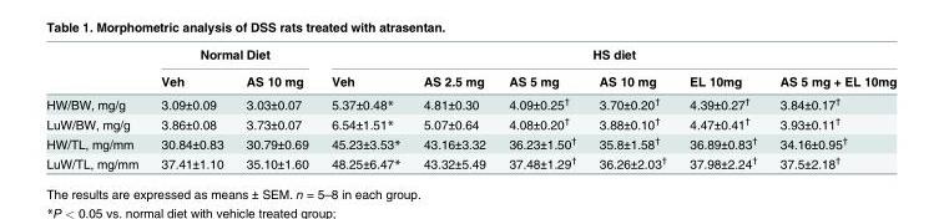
<table><thead><tr><td rowspan="2"></td><td colspan="2">Normal Diet</td><td colspan="6">HS diet</td></tr><tr><td>Veh</td><td>AS 10 mg</td><td>Veh</td><td>AS 2.5 mg</td><td>AS 5 mg</td><td>AS 10 mg</td><td>EL 10mg</td><td>AS 5 mg + EL 10mg</td></tr></thead><tbody><tr><td>HW/BW, mg/g</td><td>3.09±0.09</td><td>3.03±0.07</td><td>5.37±0.48*</td><td>4.81±0.30</td><td>4.09±0.25<sup>†</sup></td><td>3.70±0.20<sup>†</sup></td><td>4.39±0.27<sup>†</sup></td><td>3.84±0.17<sup>†</sup></td></tr><tr><td>LuW/BW, mg/g</td><td>3.86±0.08</td><td>3.73±0.07</td><td>6.54±1.51*</td><td>5.07±0.64</td><td>4.08±0.20<sup>†</sup></td><td>3.88±0.10<sup>†</sup></td><td>4.47±0.41<sup>†</sup></td><td>3.93±0.11<sup>†</sup></td></tr><tr><td>HW/TL, mg/mm</td><td>30.84±0.83</td><td>30.79±0.69</td><td>45.23±3.53*</td><td>43.16±3.32</td><td>36.23±1.50<sup>†</sup></td><td>35.8±1.58<sup>†</sup></td><td>36.89±0.83<sup>†</sup></td><td>34.16±0.95<sup>†</sup></td></tr><tr><td>LuW/TL, mg/mm</td><td>37.41±1.10</td><td>35.10±1.60</td><td>48.25±6.47*</td><td>43.32±5.49</td><td>37.48±1.29<sup>†</sup></td><td>36.26±2.03<sup>†</sup></td><td>37.98±2.24<sup>†</sup></td><td>37.5±2.18<sup>†</sup></td></tr></tbody></table>